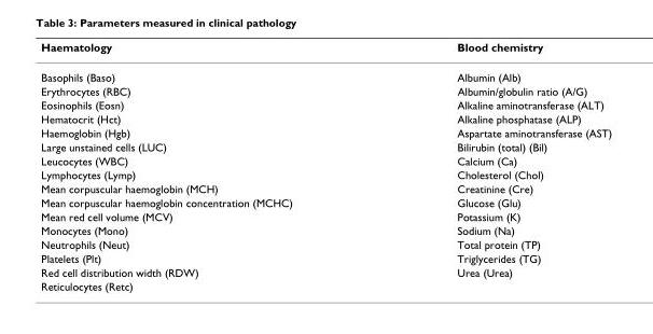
<table><thead><tr><td>Haematology</td><td>Blood chemistry</td></tr></thead><tbody><tr><td>Basophils (Baso)</td><td>Albumin (Alb)</td></tr><tr><td>Erythrocytes (RBC)</td><td>Albumin/globulin ratio (A/G)</td></tr><tr><td>Eosinophils (Eosn)</td><td>Alkaline aminotransferase (ALT)</td></tr><tr><td>Hematocrit (Hct)</td><td>Alkaline phosphatase (ALP)</td></tr><tr><td>Haemoglobin (Hgb)</td><td>Aspartate aminotransferase (AST)</td></tr><tr><td>Large unstained cells (LUC)</td><td>Bilirubin (total) (Bil)</td></tr><tr><td>Leucocytes (WBC)</td><td>Calcium (Ca)</td></tr><tr><td>Lymphocytes (Lymp)</td><td>Cholesterol (Chol)</td></tr><tr><td>Mean corpuscular haemoglobin (MCH)</td><td>Creatinine (Cre)</td></tr><tr><td>Mean corpuscular haemoglobin concentration (MCHC)</td><td>Glucose (Glu)</td></tr><tr><td>Mean red cell volume (MCV)</td><td>Potassium (K)</td></tr><tr><td>Monocytes (Mono)</td><td>Sodium (Na)</td></tr><tr><td>Neutrophils (Neut)</td><td>Total protein (TP)</td></tr><tr><td>Platelets (Plt)</td><td>Triglycerides (TG)</td></tr><tr><td>Red cell distribution width (RDW)</td><td>Urea (Urea)</td></tr><tr><td>Reticulocytes (Retc)</td><td></td></tr></tbody></table>